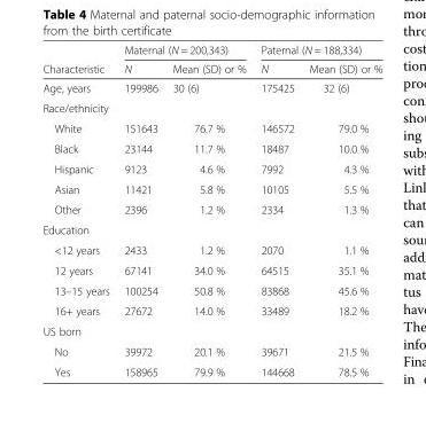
<table><thead><tr><td rowspan="2">Characteristic</td><td colspan="2">Maternal (N = 200,343)</td><td colspan="2">Paternal (N = 188,334)</td></tr><tr><td>N</td><td>Mean (SD) or %</td><td>N</td><td>Mean (SD) or %</td></tr></thead><tbody><tr><td>Age, years</td><td>199986</td><td>30 (6)</td><td>175425</td><td>32 (6)</td></tr><tr><td colspan="5">Race/ethnicity</td></tr><tr><td>White</td><td>151643</td><td>76.7 %</td><td>146572</td><td>79.0 %</td></tr><tr><td>Black</td><td>23144</td><td>11.7 %</td><td>18487</td><td>10.0 %</td></tr><tr><td>Hispanic</td><td>9123</td><td>4.6 %</td><td>7992</td><td>4.3 %</td></tr><tr><td>Asian</td><td>11421</td><td>5.8 %</td><td>10105</td><td>5.5 %</td></tr><tr><td>Other</td><td>2396</td><td>1.2 %</td><td>2334</td><td>1.3 %</td></tr><tr><td colspan="5">Education</td></tr><tr><td>&lt;12 years</td><td>2433</td><td>1.2 %</td><td>2070</td><td>1.1 %</td></tr><tr><td>12 years</td><td>67141</td><td>34.0 %</td><td>64515</td><td>35.1 %</td></tr><tr><td>13–15 years</td><td>100254</td><td>50.8 %</td><td>83868</td><td>45.6 %</td></tr><tr><td>16+ years</td><td>27672</td><td>14.0 %</td><td>33489</td><td>18.2 %</td></tr><tr><td colspan="5">US born</td></tr><tr><td>No</td><td>39972</td><td>20.1 %</td><td>39671</td><td>21.5 %</td></tr><tr><td>Yes</td><td>158965</td><td>79.9 %</td><td>144668</td><td>78.5 %</td></tr></tbody></table>